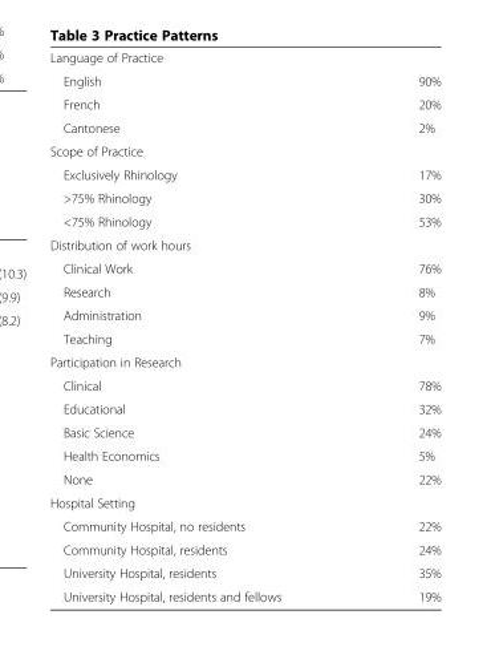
<table><tbody><tr><td colspan="2">Language of Practice</td></tr><tr><td>English</td><td>90%</td></tr><tr><td>French</td><td>20%</td></tr><tr><td>Cantonese</td><td>2%</td></tr><tr><td colspan="2">Scope of Practice</td></tr><tr><td>Exclusively Rhinology</td><td>17%</td></tr><tr><td>&gt;75% Rhinology</td><td>30%</td></tr><tr><td>&lt;75% Rhinology</td><td>53%</td></tr><tr><td colspan="2">Distribution of work hours</td></tr><tr><td>Clinical Work</td><td>76%</td></tr><tr><td>Research</td><td>8%</td></tr><tr><td>Administration</td><td>9%</td></tr><tr><td>Teaching</td><td>7%</td></tr><tr><td colspan="2">Participation in Research</td></tr><tr><td>Clinical</td><td>78%</td></tr><tr><td>Educational</td><td>32%</td></tr><tr><td>Basic Science</td><td>24%</td></tr><tr><td>Health Economics</td><td>5%</td></tr><tr><td>None</td><td>22%</td></tr><tr><td colspan="2">Hospital Setting</td></tr><tr><td>Community Hospital, no residents</td><td>22%</td></tr><tr><td>Community Hospital, residents</td><td>24%</td></tr><tr><td>University Hospital, residents</td><td>35%</td></tr><tr><td>University Hospital, residents and fellows</td><td>19%</td></tr></tbody></table>